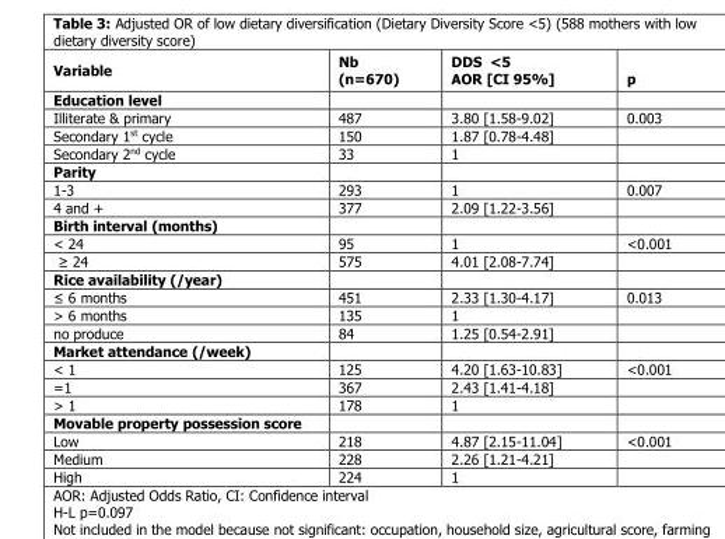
<table><thead><tr><td>Variable</td><td>Nb (n=670)</td><td>DDS &lt;5 AOR [CI 95%]</td><td>p</td></tr></thead><tbody><tr><td colspan="4">Education level</td></tr><tr><td>Illiterate &amp; primary</td><td>487</td><td>3.80 [1.58-9.02]</td><td>0.003</td></tr><tr><td>Secondary 1<sup>st</sup> cycle</td><td>150</td><td>1.87 [0.78-4.48]</td><td></td></tr><tr><td>Secondary 2<sup>nd</sup> cycle</td><td>33</td><td>1</td><td></td></tr><tr><td colspan="4">Parity</td></tr><tr><td>1-3</td><td>293</td><td>1</td><td>0.007</td></tr><tr><td>4 and +</td><td>377</td><td>2.09 [1.22-3.56]</td><td></td></tr><tr><td colspan="4">Birth interval (months)</td></tr><tr><td>&lt; 24</td><td>95</td><td>1</td><td>&lt;0.001</td></tr><tr><td>≥ 24</td><td>575</td><td>4.01 [2.08-7.74]</td><td></td></tr><tr><td colspan="4">Rice availability (/year)</td></tr><tr><td>≤ 6 months</td><td>451</td><td>2.33 [1.30-4.17]</td><td>0.013</td></tr><tr><td>&gt; 6 months</td><td>135</td><td>1</td><td></td></tr><tr><td>no produce</td><td>84</td><td>1.25 [0.54-2.91]</td><td></td></tr><tr><td colspan="4">Market attendance (/week)</td></tr><tr><td>&lt; 1</td><td>125</td><td>4.20 [1.63-10.83]</td><td>&lt;0.001</td></tr><tr><td>=1</td><td>367</td><td>2.43 [1.41-4.18]</td><td></td></tr><tr><td>&gt; 1</td><td>178</td><td>1</td><td></td></tr><tr><td colspan="4">Movable property possession score</td></tr><tr><td>Low</td><td>218</td><td>4.87 [2.15-11.04]</td><td>&lt;0.001</td></tr><tr><td>Medium</td><td>228</td><td>2.26 [1.21-4.21]</td><td></td></tr><tr><td>High</td><td>224</td><td>1</td><td></td></tr></tbody></table>